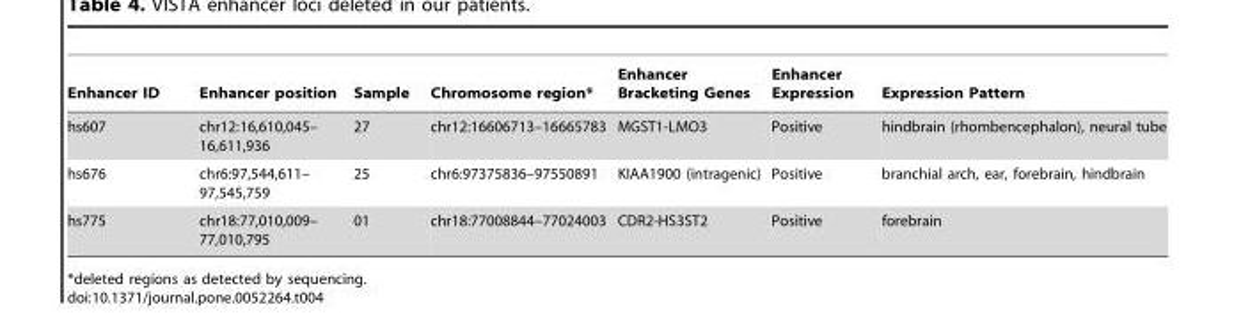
<table><thead><tr><td>Enhancer ID</td><td>Enhancer position</td><td>Sample</td><td>Chromosome region*</td><td>Enhancer Bracketing Genes</td><td>Enhancer Expression</td><td>Expression Pattern</td></tr></thead><tbody><tr><td>hs607</td><td>chr12:16,610,045– 16,611,936</td><td>27</td><td>chr12:16606713–16665783</td><td>MGST1-LMO3</td><td>Positive</td><td>hindbrain (rhombencephalon), neural tube</td></tr><tr><td>hs676</td><td>chr6:97,544,611– 97,545,759</td><td>25</td><td>chr6:97375836–97550891</td><td>KIAA1900 (intragenic)</td><td>Positive</td><td>branchial arch, ear, forebrain, hindbrain</td></tr><tr><td>hs775</td><td>chr18:77,010,009– 77,010,795</td><td>01</td><td>chr18:77008844–77024003</td><td>CDR2-HS3ST2</td><td>Positive</td><td>forebrain</td></tr></tbody></table>